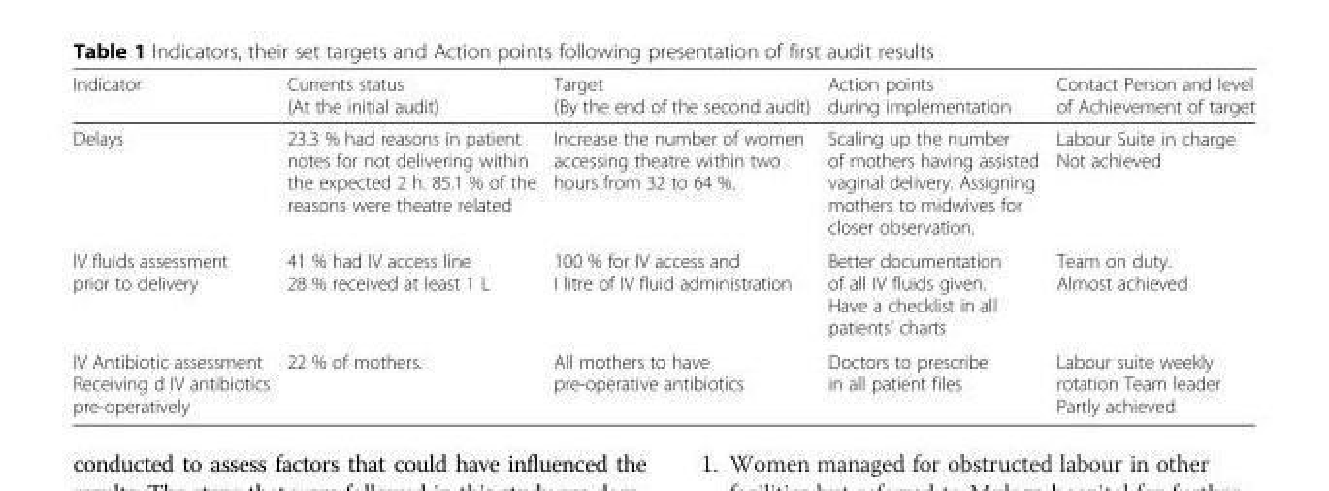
<table><thead><tr><td>Indicator</td><td>Currents status (At the initial audit)</td><td>Target (By the end of the second audit)</td><td>Action points during implementation</td><td>Contact Person and level of Achievement of target</td></tr></thead><tbody><tr><td>Delays</td><td>23.3 % had reasons in patient notes for not delivering within the expected 2 h. 85.1 % of the reasons were theatre related</td><td>Increase the number of women accessing theatre within two hours from 32 to 64 %.</td><td>Scaling up the number of mothers having assisted vaginal delivery. Assigning mothers to midwives for closer observation.</td><td>Labour Suite in charge Not achieved</td></tr><tr><td>IV fluids assessment prior to delivery</td><td>41 % had IV access line 28 % received at least 1 L</td><td>100 % for IV access and I litre of IV fluid administration</td><td>Better documentation of all IV fluids given. Have a checklist in all patients’ charts</td><td>Team on duty. Almost achieved</td></tr><tr><td>IV Antibiotic assessment Receiving d IV antibiotics pre-operatively</td><td>22 % of mothers.</td><td>All mothers to have pre-operative antibiotics</td><td>Doctors to prescribe in all patient files</td><td>Labour suite weekly rotation Team leader Partly achieved</td></tr></tbody></table>